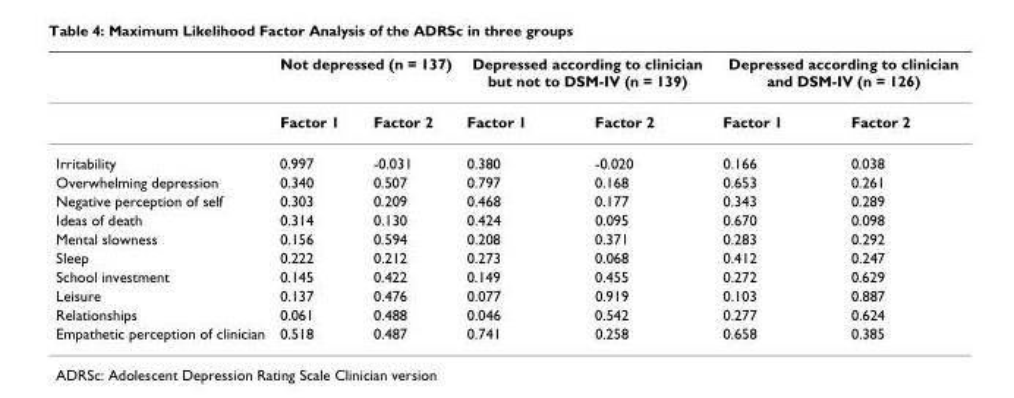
<table><thead><tr><td rowspan="2"></td><td colspan="2">Not depressed (n = 137)</td><td colspan="2">Depressed according to clinician but not to DSM-IV (n = 139)</td><td colspan="2">Depressed according to clinician and DSM-IV (n = 126)</td></tr><tr><td>Factor 1</td><td>Factor 2</td><td>Factor 1</td><td>Factor 2</td><td>Factor 1</td><td>Factor 2</td></tr></thead><tbody><tr><td>Irritability</td><td>0.997</td><td>-0.031</td><td>0.380</td><td>-0.020</td><td>0.166</td><td>0.038</td></tr><tr><td>Overwhelming depression</td><td>0.340</td><td>0.507</td><td>0.797</td><td>0.168</td><td>0.653</td><td>0.261</td></tr><tr><td>Negative perception of self</td><td>0.303</td><td>0.209</td><td>0.468</td><td>0.177</td><td>0.343</td><td>0.289</td></tr><tr><td>Ideas of death</td><td>0.314</td><td>0.130</td><td>0.424</td><td>0.095</td><td>0.670</td><td>0.098</td></tr><tr><td>Mental slowness</td><td>0.156</td><td>0.594</td><td>0.208</td><td>0.371</td><td>0.283</td><td>0.292</td></tr><tr><td>Sleep</td><td>0.222</td><td>0.212</td><td>0.273</td><td>0.068</td><td>0.412</td><td>0.247</td></tr><tr><td>School investment</td><td>0.145</td><td>0.422</td><td>0.149</td><td>0.455</td><td>0.272</td><td>0.629</td></tr><tr><td>Leisure</td><td>0.137</td><td>0.476</td><td>0.077</td><td>0.919</td><td>0.103</td><td>0.887</td></tr><tr><td>Relationships</td><td>0.061</td><td>0.488</td><td>0.046</td><td>0.542</td><td>0.277</td><td>0.624</td></tr><tr><td>Empathetic perception of clinician</td><td>0.518</td><td>0.487</td><td>0.741</td><td>0.258</td><td>0.658</td><td>0.385</td></tr></tbody></table>